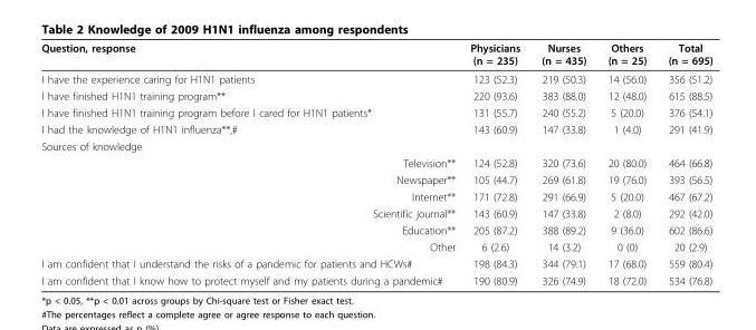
<table><thead><tr><td>Question, response</td><td>Physicians (n = 235)</td><td>Nurses (n = 435)</td><td>Others (n = 25)</td><td>Total (n = 695)</td></tr></thead><tbody><tr><td>I have the experience caring for H1N1 patients</td><td>123 (52.3)</td><td>219 (50.3)</td><td>14 (56.0)</td><td>356 (51.2)</td></tr><tr><td>I have finished H1N1 training program**</td><td>220 (93.6)</td><td>383 (88.0)</td><td>12 (48.0)</td><td>615 (88.5)</td></tr><tr><td>I have finished H1N1 training program before I cared for H1N1 patients*</td><td>131 (55.7)</td><td>240 (55.2)</td><td>5 (20.0)</td><td>376 (54.1)</td></tr><tr><td>I had the knowledge of H1N1 influenza**,#</td><td>143 (60.9)</td><td>147 (33.8)</td><td>1 (4.0)</td><td>291 (41.9)</td></tr><tr><td colspan="5">Sources of knowledge</td></tr><tr><td>Television**</td><td>124 (52.8)</td><td>320 (73.6)</td><td>20 (80.0)</td><td>464 (66.8)</td></tr><tr><td>Newspaper**</td><td>105 (44.7)</td><td>269 (61.8)</td><td>19 (76.0)</td><td>393 (56.5)</td></tr><tr><td>Internet**</td><td>171 (72.8)</td><td>291 (66.9)</td><td>5 (20.0)</td><td>467 (67.2)</td></tr><tr><td>Scientific journal**</td><td>143 (60.9)</td><td>147 (33.8)</td><td>2 (8.0)</td><td>292 (42.0)</td></tr><tr><td>Education**</td><td>205 (87.2)</td><td>388 (89.2)</td><td>9 (36.0)</td><td>602 (86.6)</td></tr><tr><td>Other</td><td>6 (2.6)</td><td>14 (3.2)</td><td>0 (0)</td><td>20 (2.9)</td></tr><tr><td>I am confident that I understand the risks of a pandemic for patients and HCWs#</td><td>198 (84.3)</td><td>344 (79.1)</td><td>17 (68.0)</td><td>559 (80.4)</td></tr><tr><td>I am confident that I know how to protect myself and my patients during a pandemic#</td><td>190 (80.9)</td><td>326 (74.9)</td><td>18 (72.0)</td><td>534 (76.8)</td></tr></tbody></table>